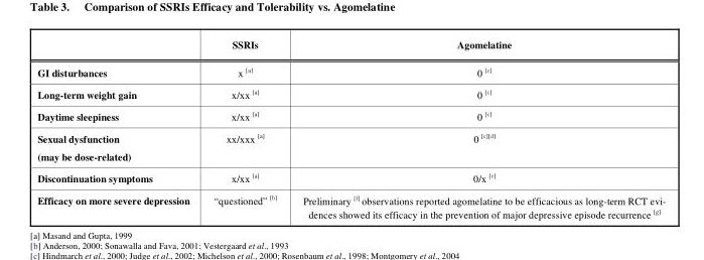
<table><thead><tr><td></td><td>SSRIs</td><td>Agomelatine</td></tr></thead><tbody><tr><td>GI disturbances</td><td>x [a]</td><td>0 [c]</td></tr><tr><td>Long-term weight gain</td><td>x/xx [a]</td><td>0 [c]</td></tr><tr><td>Daytime sleepiness</td><td>x/xx [a]</td><td>0 [c]</td></tr><tr><td>Sexual dysfunction (may be dose-related)</td><td>xx/xxx [a]</td><td>0 [c][d]</td></tr><tr><td>Discontinuation symptoms</td><td>x/xx [a]</td><td>0/x [e]</td></tr><tr><td>Efficacy on more severe depression</td><td>“questioned” [b]</td><td>Preliminary [f] observations reported agomelatine to be efficacious as long-term RCT evi- dences showed its efficacy in the prevention of major depressive episode recurrence [g]</td></tr></tbody></table>